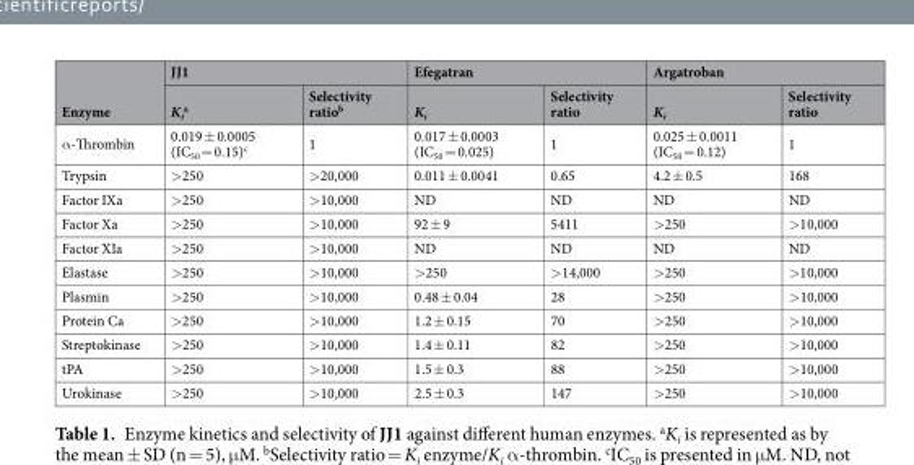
<table><thead><tr><td rowspan="2">Enzyme</td><td colspan="2">JJ1</td><td colspan="2">Efegatran</td><td colspan="2">Argatroban</td></tr><tr><td>K<sub>i</sub> <sup>a</sup></td><td>Selectivity ratio<sup>b</sup></td><td>K<sub>i</sub></td><td>Selectivity ratio</td><td>K<sub>i</sub></td><td>Selectivity ratio</td></tr></thead><tbody><tr><td>α-Thrombin</td><td>0.019 ± 0.0005 (IC<sub>50</sub> = 0.15)<sup>c</sup></td><td>1</td><td>0.017 ± 0.0003 (IC<sub>50</sub> = 0.025)</td><td>1</td><td>0.025 ± 0.0011 (IC<sub>50</sub> = 0.12)</td><td>1</td></tr><tr><td>Trypsin</td><td>&gt;250</td><td>&gt;20,000</td><td>0.011 ± 0.0041</td><td>0.65</td><td>4.2 ± 0.5</td><td>168</td></tr><tr><td>Factor IXa</td><td>&gt;250</td><td>&gt;10,000</td><td>ND</td><td>ND</td><td>ND</td><td>ND</td></tr><tr><td>Factor Xa</td><td>&gt;250</td><td>&gt;10,000</td><td>92 ± 9</td><td>5411</td><td>&gt;250</td><td>&gt;10,000</td></tr><tr><td>Factor XIa</td><td>&gt;250</td><td>&gt;10,000</td><td>ND</td><td>ND</td><td>ND</td><td>ND</td></tr><tr><td>Elastase</td><td>&gt;250</td><td>&gt;10,000</td><td>&gt;250</td><td>&gt;14,000</td><td>&gt;250</td><td>&gt;10,000</td></tr><tr><td>Plasmin</td><td>&gt;250</td><td>&gt;10,000</td><td>0.48 ± 0.04</td><td>28</td><td>&gt;250</td><td>&gt;10,000</td></tr><tr><td>Protein Ca</td><td>&gt;250</td><td>&gt;10,000</td><td>1.2 ± 0.15</td><td>70</td><td>&gt;250</td><td>&gt;10,000</td></tr><tr><td>Streptokinase</td><td>&gt;250</td><td>&gt;10,000</td><td>1.4 ± 0.11</td><td>82</td><td>&gt;250</td><td>&gt;10,000</td></tr><tr><td>tPA</td><td>&gt;250</td><td>&gt;10,000</td><td>1.5 ± 0.3</td><td>88</td><td>&gt;250</td><td>&gt;10,000</td></tr><tr><td>Urokinase</td><td>&gt;250</td><td>&gt;10,000</td><td>2.5 ± 0.3</td><td>147</td><td>&gt;250</td><td>&gt;10,000</td></tr></tbody></table>